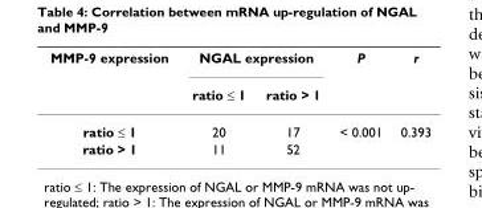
<table><thead><tr><td rowspan="2">MMP-9 expression</td><td colspan="2">NGAL expression</td><td rowspan="2">P</td><td rowspan="2">r</td></tr><tr><td>ratio ≤ 1</td><td>ratio &gt; 1</td></tr></thead><tbody><tr><td>ratio ≤ 1</td><td>20</td><td>17</td><td>&lt; 0.001</td><td>0.393</td></tr><tr><td>ratio &gt; 1</td><td>11</td><td>52</td><td></td><td></td></tr></tbody></table>